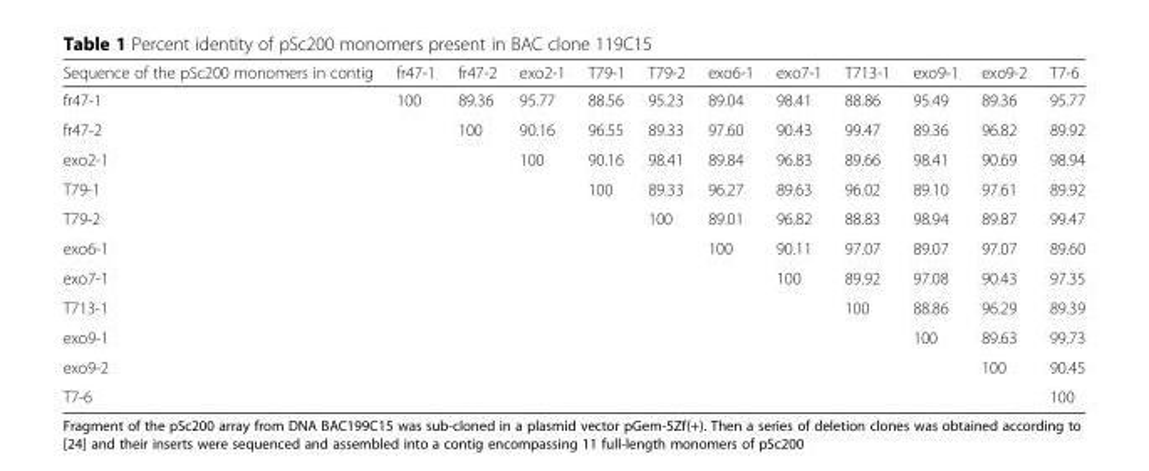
<table><thead><tr><td>Sequence of the pSc200 monomers in contig</td><td>fr47-1</td><td>fr47-2</td><td>exo2-1</td><td>T79-1</td><td>T79-2</td><td>exo6-1</td><td>exo7-1</td><td>T713-1</td><td>exo9-1</td><td>exo9-2</td><td>T7-6</td></tr></thead><tbody><tr><td>fr47-1</td><td>100</td><td>89.36</td><td>95.77</td><td>88.56</td><td>95.23</td><td>89.04</td><td>98.41</td><td>88.86</td><td>95.49</td><td>89.36</td><td>95.77</td></tr><tr><td>fr47-2</td><td></td><td>100</td><td>90.16</td><td>96.55</td><td>89.33</td><td>97.60</td><td>90.43</td><td>99.47</td><td>89.36</td><td>96.82</td><td>89.92</td></tr><tr><td>exo2-1</td><td></td><td></td><td>100</td><td>90.16</td><td>98.41</td><td>89.84</td><td>96.83</td><td>89.66</td><td>98.41</td><td>90.69</td><td>98.94</td></tr><tr><td>T79-1</td><td></td><td></td><td></td><td>100</td><td>89.33</td><td>96.27</td><td>89.63</td><td>96.02</td><td>89.10</td><td>97.61</td><td>89.92</td></tr><tr><td>T79-2</td><td></td><td></td><td></td><td></td><td>100</td><td>89.01</td><td>96.82</td><td>88.83</td><td>98.94</td><td>89.87</td><td>99.47</td></tr><tr><td>exo6-1</td><td></td><td></td><td></td><td></td><td></td><td>100</td><td>90.11</td><td>97.07</td><td>89.07</td><td>97.07</td><td>89.60</td></tr><tr><td>exo7-1</td><td></td><td></td><td></td><td></td><td></td><td></td><td>100</td><td>89.92</td><td>97.08</td><td>90.43</td><td>97.35</td></tr><tr><td>T713-1</td><td></td><td></td><td></td><td></td><td></td><td></td><td></td><td>100</td><td>88.86</td><td>96.29</td><td>89.39</td></tr><tr><td>exo9-1</td><td></td><td></td><td></td><td></td><td></td><td></td><td></td><td></td><td>100</td><td>89.63</td><td>99.73</td></tr><tr><td>exo9-2</td><td></td><td></td><td></td><td></td><td></td><td></td><td></td><td></td><td></td><td>100</td><td>90.45</td></tr><tr><td>Т7-6</td><td></td><td></td><td></td><td></td><td></td><td></td><td></td><td></td><td></td><td></td><td>100</td></tr></tbody></table>